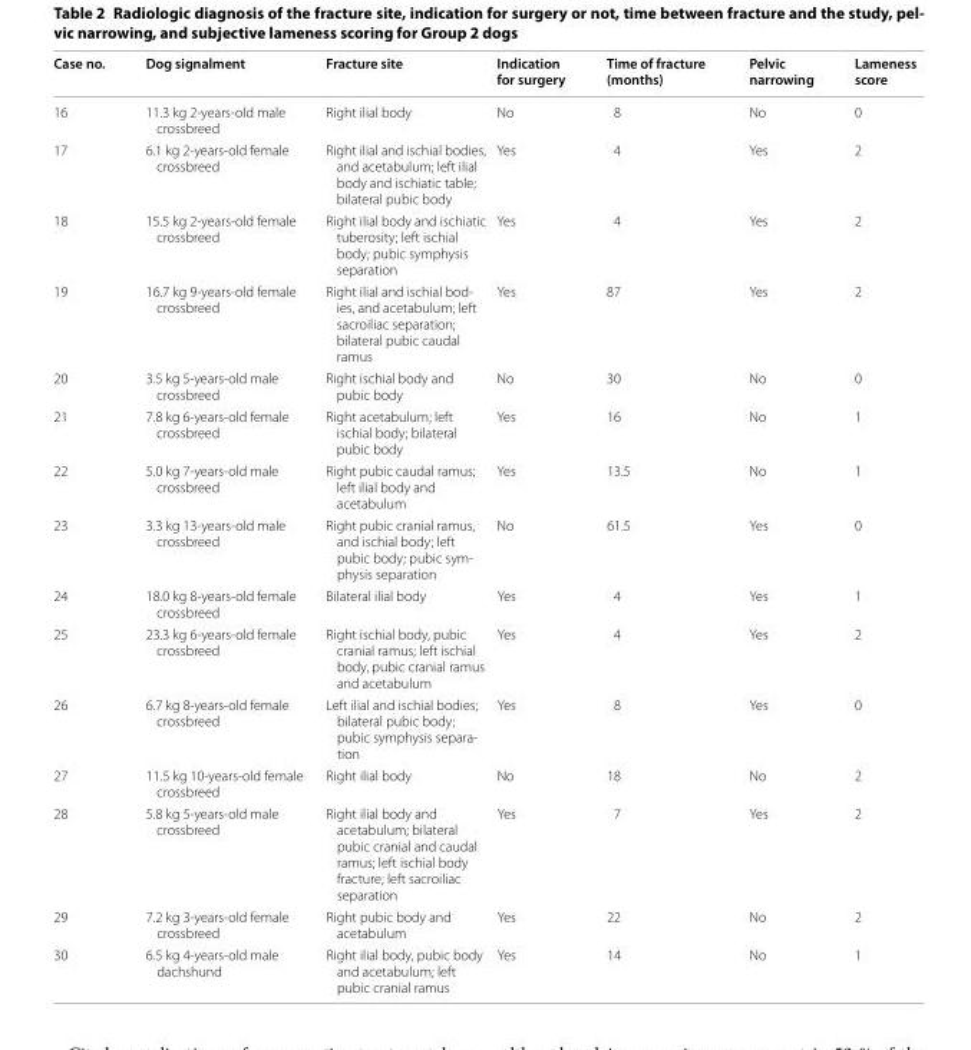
<table><thead><tr><td>Case no.</td><td>Dog signalment</td><td>Fracture site</td><td>Indication for surgery</td><td>Time of fracture (months)</td><td>Pelvic narrowing</td><td>Lameness score</td></tr></thead><tbody><tr><td>16</td><td>11.3 kg 2-years-old male crossbreed</td><td>Right ilial body</td><td>No</td><td>8</td><td>No</td><td>0</td></tr><tr><td>17</td><td>6.1 kg 2-years-old female crossbreed</td><td>Right ilial and ischial bodies, and acetabulum; left ilial body and ischiatic table; bilateral pubic body</td><td>Yes</td><td>4</td><td>Yes</td><td>2</td></tr><tr><td>18</td><td>15.5 kg 2-years-old female crossbreed</td><td>Right ilial body and ischiatic tuberosity; left ischial body; pubic symphysis separation</td><td>Yes</td><td>4</td><td>Yes</td><td>2</td></tr><tr><td>19</td><td>16.7 kg 9-years-old female crossbreed</td><td>Right ilial and ischial bod- ies, and acetabulum; left sacroiliac separation; bilateral pubic caudal ramus</td><td>Yes</td><td>87</td><td>Yes</td><td>2</td></tr><tr><td>20</td><td>3.5 kg 5-years-old male crossbreed</td><td>Right ischial body and pubic body</td><td>No</td><td>30</td><td>No</td><td>0</td></tr><tr><td>21</td><td>7.8 kg 6-years-old female crossbreed</td><td>Right acetabulum; left ischial body; bilateral pubic body</td><td>Yes</td><td>16</td><td>No</td><td>1</td></tr><tr><td>22</td><td>5.0 kg 7-years-old male crossbreed</td><td>Right pubic caudal ramus; left ilial body and acetabulum</td><td>Yes</td><td>13.5</td><td>No</td><td>1</td></tr><tr><td>23</td><td>3.3 kg 13-years-old male crossbreed</td><td>Right pubic cranial ramus, and ischial body; left pubic body; pubic sym- physis separation</td><td>No</td><td>61.5</td><td>Yes</td><td>0</td></tr><tr><td>24</td><td>18.0 kg 8-years-old female crossbreed</td><td>Bilateral ilial body</td><td>Yes</td><td>4</td><td>Yes</td><td>1</td></tr><tr><td>25</td><td>23.3 kg 6-years-old female crossbreed</td><td>Right ischial body, pubic cranial ramus; left ischial body, pubic cranial ramus and acetabulum</td><td>Yes</td><td>4</td><td>Yes</td><td>2</td></tr><tr><td>26</td><td>6.7 kg 8-years-old female crossbreed</td><td>Left ilial and ischial bodies; bilateral pubic body; pubic symphysis separa- tion</td><td>Yes</td><td>8</td><td>Yes</td><td>0</td></tr><tr><td>27</td><td>11.5 kg 10-years-old female crossbreed</td><td>Right ilial body</td><td>No</td><td>18</td><td>No</td><td>2</td></tr><tr><td>28</td><td>5.8 kg 5-years-old male crossbreed</td><td>Right ilial body and acetabulum; bilateral pubic cranial and caudal ramus; left ischial body fracture; left sacroiliac separation</td><td>Yes</td><td>7</td><td>Yes</td><td>2</td></tr><tr><td>29</td><td>7.2 kg 3-years-old female crossbreed</td><td>Right pubic body and acetabulum</td><td>Yes</td><td>22</td><td>No</td><td>2</td></tr><tr><td>30</td><td>6.5 kg 4-years-old male dachshund</td><td>Right ilial body, pubic body and acetabulum; left pubic cranial ramus</td><td>Yes</td><td>14</td><td>No</td><td>1</td></tr></tbody></table>